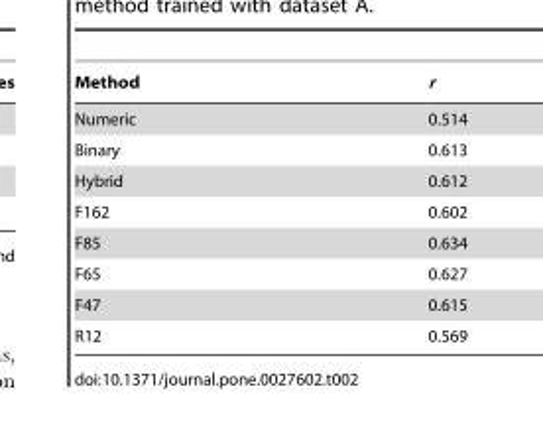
<table><thead><tr><td>Method</td><td>r</td></tr></thead><tbody><tr><td>Numeric</td><td>0.514</td></tr><tr><td>Binary</td><td>0.613</td></tr><tr><td>Hybrid</td><td>0.612</td></tr><tr><td>F162</td><td>0.602</td></tr><tr><td>F85</td><td>0.634</td></tr><tr><td>F65</td><td>0.627</td></tr><tr><td>F47</td><td>0.615</td></tr><tr><td>R12</td><td>0.569</td></tr></tbody></table>